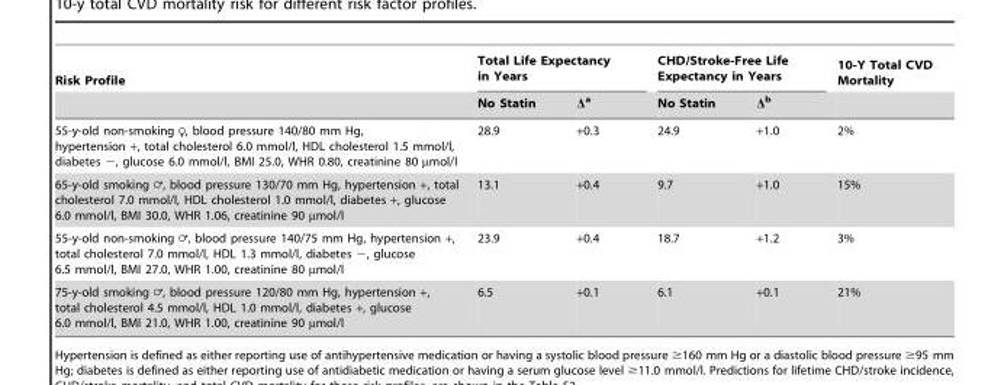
<table><thead><tr><td rowspan="2">Risk Profile</td><td colspan="2">Total Life Expectancy in Years</td><td colspan="2">CHD/Stroke-Free Life Expectancy in Years</td><td rowspan="2">10-Y Total CVD Mortality</td></tr><tr><td>No Statin</td><td>Δ<sup>a</sup></td><td>No Statin</td><td>Δ<sup>b</sup></td></tr></thead><tbody><tr><td>55-y-old non-smoking ♀, blood pressure 140/80 mm Hg, hypertension +, total cholesterol 6.0 mmol/l, HDL cholesterol 1.5 mmol/l, diabetes −, glucose 6.0 mmol/l, BMI 25.0, WHR 0.80, creatinine 80 µmol/l</td><td>28.9</td><td>+0.3</td><td>24.9</td><td>+1.0</td><td>2%</td></tr><tr><td>65-y-old smoking =, blood pressure 130/70 mm Hg, hypertension +, total cholesterol 7.0 mmol/l, HDL cholesterol 1.0 mmol/l, diabetes +, glucose 6.0 mmol/l, BMI 30.0, WHR 1.06, creatinine 90 mmol/l</td><td>13.1</td><td>+0.4</td><td>9.7</td><td>+1.0</td><td>15%</td></tr><tr><td>55-y-old non-smoking =, blood pressure 140/75 mm Hg, hypertension +, total cholesterol 7.0 mmol/l, HDL 1.3 mmol/l, diabetes 2, glucose 6.5 mmol/l, BMI 27.0, WHR 1.00, creatinine 80 mmol/l</td><td>23.9</td><td>+0.4</td><td>18.7</td><td>+1.2</td><td>3%</td></tr><tr><td>75-y-old smoking =, blood pressure 120/80 mm Hg, hypertension +, total cholesterol 4.5 mmol/l, HDL 1.0 mmol/l, diabetes +, glucose 6.0 mmol/l, BMI 21.0, WHR 1.00, creatinine 90 mmol/l</td><td>6.5</td><td>+0.1</td><td>6.1</td><td>+0.1</td><td>21%</td></tr></tbody></table>